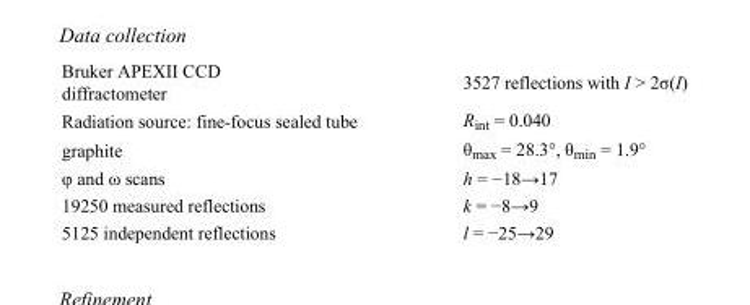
<table><tbody><tr><td>Bruker APEXII CCD diffractometer</td><td>3527 reflections with I &gt; 2σ(I)</td></tr><tr><td>Radiation source: fine-focus sealed tube</td><td>R<sub>int</sub> = 0.040</td></tr><tr><td>graphite</td><td>θ<sub>max</sub> = 28.3°, θ<sub>min</sub> = 1.9°</td></tr><tr><td>φ and ω scans</td><td>h = −18→17</td></tr><tr><td>19250 measured reflections</td><td>k = −8→9</td></tr><tr><td>5125 independent reflections</td><td>l = −25→29</td></tr></tbody></table>